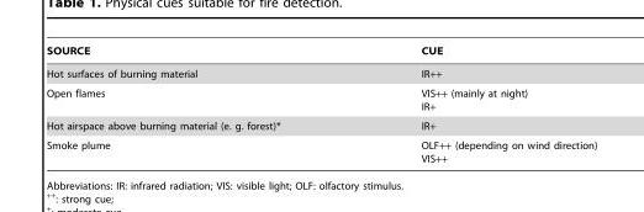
<table><thead><tr><td>SOURCE</td><td>CUE</td></tr></thead><tbody><tr><td>Hot surfaces of burning material</td><td>IR++</td></tr><tr><td>Open flames</td><td>VIS++ (mainly at night) IR+</td></tr><tr><td>Hot airspace above burning material (e. g. forest)*</td><td>IR+</td></tr><tr><td>Smoke plume</td><td>OLF++ (depending on wind direction) VIS++</td></tr></tbody></table>